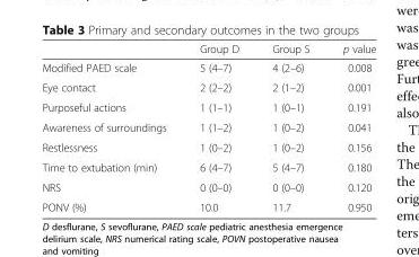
<table><thead><tr><td></td><td>Group D</td><td>Group S</td><td>p value</td></tr></thead><tbody><tr><td>Modified PAED scale</td><td>5 (4–7)</td><td>4 (2–6)</td><td>0.008</td></tr><tr><td>Eye contact</td><td>2 (2–2)</td><td>2 (1–2)</td><td>0.001</td></tr><tr><td>Purposeful actions</td><td>1 (1–1)</td><td>1 (0–1)</td><td>0.191</td></tr><tr><td>Awareness of surroundings</td><td>1 (1–2)</td><td>1 (0–2)</td><td>0.041</td></tr><tr><td>Restlessness</td><td>1 (0–2)</td><td>1 (0–2)</td><td>0.156</td></tr><tr><td>Time to extubation (min)</td><td>6 (4–7)</td><td>5 (4–7)</td><td>0.180</td></tr><tr><td>NRS</td><td>0 (0–0)</td><td>0 (0–0)</td><td>0.120</td></tr><tr><td>PONV (%)</td><td>10.0</td><td>11.7</td><td>0.950</td></tr></tbody></table>